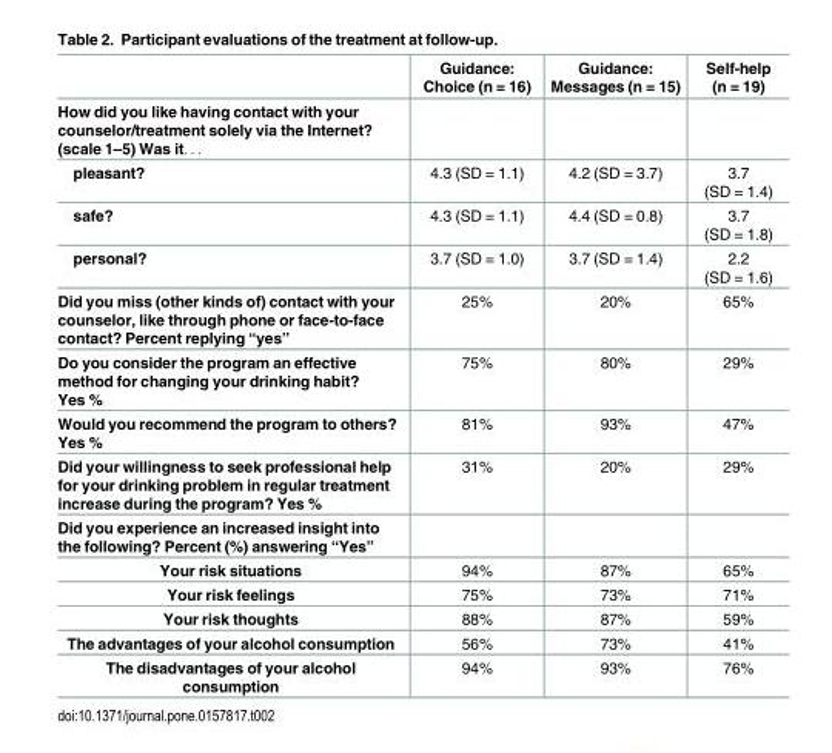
<table><thead><tr><td></td><td>Guidance: Choice (n = 16)</td><td>Guidance: Messages (n = 15)</td><td>Self-help (n = 19)</td></tr></thead><tbody><tr><td colspan="4">How did you like having contact with your counselor/treatment solely via the Internet? (scale 1–5) Was it. . .</td></tr><tr><td>pleasant?</td><td>4.3 (SD = 1.1)</td><td>4.2 (SD = 3.7)</td><td>3.7 (SD = 1.4)</td></tr><tr><td>safe?</td><td>4.3 (SD = 1.1)</td><td>4.4 (SD = 0.8)</td><td>3.7 (SD = 1.8)</td></tr><tr><td>personal?</td><td>3.7 (SD = 1.0)</td><td>3.7 (SD = 1.4)</td><td>2.2 (SD = 1.6)</td></tr><tr><td>Did you miss (other kinds of) contact with your counselor, like through phone or face-to-face contact? Percent replying “yes”</td><td>25%</td><td>20%</td><td>65%</td></tr><tr><td>Do you consider the program an effective method for changing your drinking habit? Yes %</td><td>75%</td><td>80%</td><td>29%</td></tr><tr><td>Would you recommend the program to others? Yes %</td><td>81%</td><td>93%</td><td>47%</td></tr><tr><td>Did your willingness to seek professional help for your drinking problem in regular treatment increase during the program? Yes %</td><td>31%</td><td>20%</td><td>29%</td></tr><tr><td colspan="4">Did you experience an increased insight into the following? Percent (%) answering “Yes”</td></tr><tr><td>Your risk situations</td><td>94%</td><td>87%</td><td>65%</td></tr><tr><td>Your risk feelings</td><td>75%</td><td>73%</td><td>71%</td></tr><tr><td>Your risk thoughts</td><td>88%</td><td>87%</td><td>59%</td></tr><tr><td>The advantages of your alcohol consumption</td><td>56%</td><td>73%</td><td>41%</td></tr><tr><td>The disadvantages of your alcohol consumption</td><td>94%</td><td>93%</td><td>76%</td></tr></tbody></table>